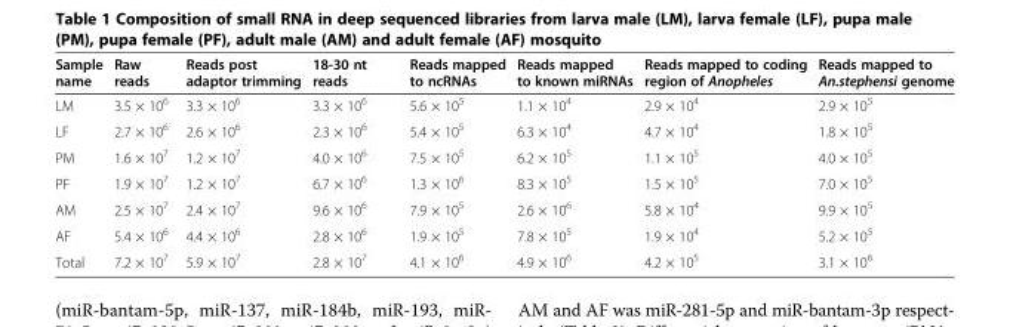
<table><thead><tr><td>Sample name</td><td>Raw reads</td><td>Reads post adaptor trimming</td><td>18-30 nt reads</td><td>Reads mapped to ncRNAs</td><td>Reads mapped to known miRNAs</td><td>Reads mapped to coding region of Anopheles</td><td>Reads mapped to An.stephensi genome</td></tr></thead><tbody><tr><td>LM</td><td>3.5 × 10<sup>6</sup></td><td>3.3 × 10<sup>6</sup></td><td>3.3 × 10<sup>6</sup></td><td>5.6 × 10<sup>5</sup></td><td>1.1 × 10<sup>4</sup></td><td>2.9 × 10<sup>4</sup></td><td>2.9 × 10<sup>5</sup></td></tr><tr><td>LF</td><td>2.7 × 10<sup>6</sup></td><td>2.6 × 10<sup>6</sup></td><td>2.3 × 10<sup>6</sup></td><td>5.4 × 10<sup>5</sup></td><td>6.3 × 10<sup>4</sup></td><td>4.7 × 10<sup>4</sup></td><td>1.8 × 10<sup>5</sup></td></tr><tr><td>PM</td><td>1.6 × 10<sup>7</sup></td><td>1.2 × 10<sup>7</sup></td><td>4.0 × 10<sup>6</sup></td><td>7.5 × 10<sup>5</sup></td><td>6.2 × 10<sup>5</sup></td><td>1.1 × 10<sup>5</sup></td><td>4.0 × 10<sup>5</sup></td></tr><tr><td>PF</td><td>1.9 × 10<sup>7</sup></td><td>1.2 × 10<sup>7</sup></td><td>6.7 × 10<sup>6</sup></td><td>1.3 × 10<sup>6</sup></td><td>8.3 × 10<sup>5</sup></td><td>1.5 × 10<sup>5</sup></td><td>7.0 × 10<sup>5</sup></td></tr><tr><td>AM</td><td>2.5 × 10<sup>7</sup></td><td>2.4 × 10<sup>7</sup></td><td>9.6 × 10<sup>6</sup></td><td>7.9 × 10<sup>5</sup></td><td>2.6 × 10<sup>6</sup></td><td>5.8 × 10<sup>4</sup></td><td>9.9 × 10<sup>5</sup></td></tr><tr><td>AF</td><td>5.4 × 10<sup>6</sup></td><td>4.4 × 10<sup>6</sup></td><td>2.8 × 10<sup>6</sup></td><td>1.9 × 10<sup>5</sup></td><td>7.8 × 10<sup>5</sup></td><td>1.9 × 10<sup>4</sup></td><td>5.2 × 10<sup>5</sup></td></tr><tr><td>Total</td><td>7.2 × 10<sup>7</sup></td><td>5.9 × 10<sup>7</sup></td><td>2.8 × 10<sup>7</sup></td><td>4.1 × 10<sup>6</sup></td><td>4.9 × 10<sup>6</sup></td><td>4.2 × 10<sup>5</sup></td><td>3.1 × 10<sup>6</sup></td></tr></tbody></table>